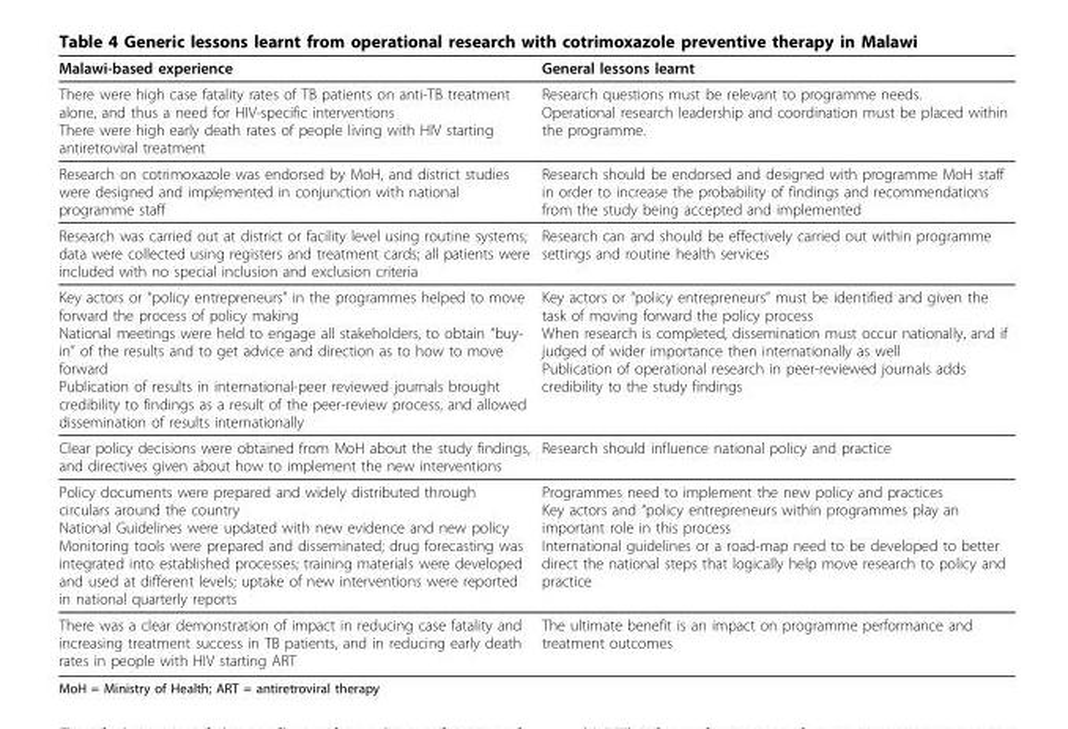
<table><thead><tr><td>Malawi-based experience</td><td>General lessons learnt</td></tr></thead><tbody><tr><td>There were high case fatality rates of TB patients on anti-TB treatment alone, and thus a need for HIV-specific interventions There were high early death rates of people living with HIV starting antiretroviral treatment</td><td>Research questions must be relevant to programme needs. Operational research leadership and coordination must be placed within the programme.</td></tr><tr><td>Research on cotrimoxazole was endorsed by MoH, and district studies were designed and implemented in conjunction with national programme staff</td><td>Research should be endorsed and designed with programme MoH staff in order to increase the probability of findings and recommendations from the study being accepted and implemented</td></tr><tr><td>Research was carried out at district or facility level using routine systems; data were collected using registers and treatment cards; all patients were included with no special inclusion and exclusion criteria</td><td>Research can and should be effectively carried out within programme settings and routine health services</td></tr><tr><td>Key actors or “policy entrepreneurs” in the programmes helped to move forward the process of policy making National meetings were held to engage all stakeholders, to obtain “buy- in” of the results and to get advice and direction as to how to move forward Publication of results in international-peer reviewed journals brought credibility to findings as a result of the peer-review process, and allowed dissemination of results internationally</td><td>Key actors or “policy entrepreneurs” must be identified and given the task of moving forward the policy process When research is completed, dissemination must occur nationally, and if judged of wider importance then internationally as well Publication of operational research in peer-reviewed journals adds credibility to the study findings</td></tr><tr><td>Clear policy decisions were obtained from MoH about the study findings, and directives given about how to implement the new interventions</td><td>Research should influence national policy and practice</td></tr><tr><td>Policy documents were prepared and widely distributed through circulars around the country National Guidelines were updated with new evidence and new policy Monitoring tools were prepared and disseminated; drug forecasting was integrated into established processes; training materials were developed and used at different levels; uptake of new interventions were reported in national quarterly reports</td><td>Programmes need to implement the new policy and practices Key actors and “policy entrepreneurs within programmes play an important role in this process International guidelines or a road-map need to be developed to better direct the national steps that logically help move research to policy and practice</td></tr><tr><td>There was a clear demonstration of impact in reducing case fatality and increasing treatment success in TB patients, and in reducing early death rates in people with HIV starting ART</td><td>The ultimate benefit is an impact on programme performance and treatment outcomes</td></tr></tbody></table>